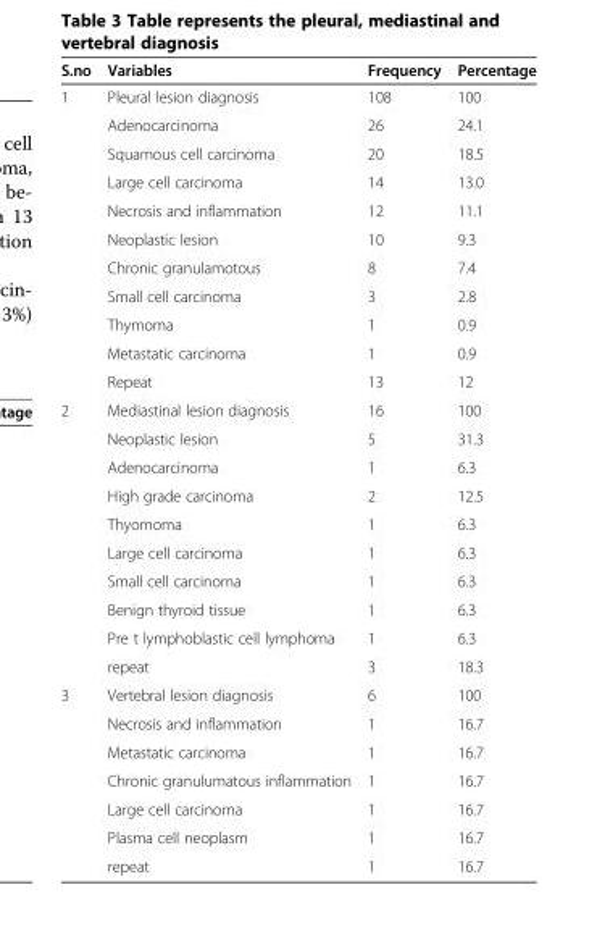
<table><thead><tr><td>S.no</td><td>Variables</td><td>Frequency</td><td>Percentage</td></tr></thead><tbody><tr><td rowspan="11">1</td><td>Pleural lesion diagnosis</td><td>108</td><td>100</td></tr><tr><td>Adenocarcinoma</td><td>26</td><td>24.1</td></tr><tr><td>Squamous cell carcinoma</td><td>20</td><td>18.5</td></tr><tr><td>Large cell carcinoma</td><td>14</td><td>13.0</td></tr><tr><td>Necrosis and inflammation</td><td>12</td><td>11.1</td></tr><tr><td>Neoplastic lesion</td><td>10</td><td>9.3</td></tr><tr><td>Chronic granulamotous</td><td>8</td><td>7.4</td></tr><tr><td>Small cell carcinoma</td><td>3</td><td>2.8</td></tr><tr><td>Thymoma</td><td>1</td><td>0.9</td></tr><tr><td>Metastatic carcinoma</td><td>1</td><td>0.9</td></tr><tr><td>Repeat</td><td>13</td><td>12</td></tr><tr><td rowspan="10">2</td><td>Mediastinal lesion diagnosis</td><td>16</td><td>100</td></tr><tr><td>Neoplastic lesion</td><td>5</td><td>31.3</td></tr><tr><td>Adenocarcinoma</td><td>1</td><td>6.3</td></tr><tr><td>High grade carcinoma</td><td>2</td><td>12.5</td></tr><tr><td>Thyomoma</td><td>1</td><td>6.3</td></tr><tr><td>Large cell carcinoma</td><td>1</td><td>6.3</td></tr><tr><td>Small cell carcinoma</td><td>1</td><td>6.3</td></tr><tr><td>Benign thyroid tissue</td><td>1</td><td>6.3</td></tr><tr><td>Pre t lymphoblastic cell lymphoma</td><td>1</td><td>6.3</td></tr><tr><td>repeat</td><td>3</td><td>18.3</td></tr><tr><td rowspan="7">3</td><td>Vertebral lesion diagnosis</td><td>6</td><td>100</td></tr><tr><td>Necrosis and inflammation</td><td>1</td><td>16.7</td></tr><tr><td>Metastatic carcinoma</td><td>1</td><td>16.7</td></tr><tr><td>Chronic granulumatous inflammation</td><td>1</td><td>16.7</td></tr><tr><td>Large cell carcinoma</td><td>1</td><td>16.7</td></tr><tr><td>Plasma cell neoplasm</td><td>1</td><td>16.7</td></tr><tr><td>repeat</td><td>1</td><td>16.7</td></tr></tbody></table>